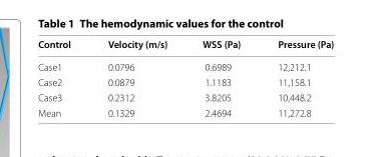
<table><thead><tr><td>Control</td><td>Velocity (m/s)</td><td>WSS (Pa)</td><td>Pressure (Pa)</td></tr></thead><tbody><tr><td>Case1</td><td>0.0796</td><td>0.6989</td><td>12,212.1</td></tr><tr><td>Case2</td><td>0.0879</td><td>1.1183</td><td>11,158.1</td></tr><tr><td>Case3</td><td>0.2312</td><td>3.8205</td><td>10,448.2</td></tr><tr><td>Mean</td><td>0.1329</td><td>2.4694</td><td>11,272.8</td></tr></tbody></table>